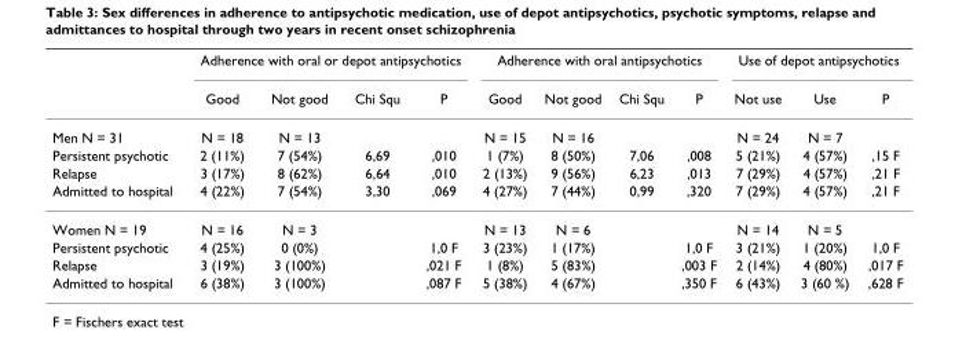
<table><thead><tr><td rowspan="2"></td><td colspan="4">Adherence with oral or depot antipsychotics</td><td colspan="4">Adherence with oral antipsychotics</td><td colspan="3">Use of depot antipsychotics</td></tr><tr><td>Good</td><td>Not good</td><td>Chi Squ</td><td>P</td><td>Good</td><td>Not good</td><td>Chi Squ</td><td>P</td><td>Not use</td><td>Use</td><td>P</td></tr></thead><tbody><tr><td>Men N = 31</td><td>N = 18</td><td>N = 13</td><td></td><td></td><td>N = 15</td><td>N = 16</td><td></td><td></td><td>N = 24</td><td>N = 7</td><td></td></tr><tr><td>Persistent psychotic</td><td>2 (11%)</td><td>7 (54%)</td><td>6,69</td><td>,010</td><td>1 (7%)</td><td>8 (50%)</td><td>7,06</td><td>,008</td><td>5 (21%)</td><td>4 (57%)</td><td>,15 F</td></tr><tr><td>Relapse</td><td>3 (17%)</td><td>8 (62%)</td><td>6,64</td><td>,010</td><td>2 (13%)</td><td>9 (56%)</td><td>6,23</td><td>,013</td><td>7 (29%)</td><td>4 (57%)</td><td>,21 F</td></tr><tr><td>Admitted to hospital</td><td>4 (22%)</td><td>7 (54%)</td><td>3,30</td><td>,069</td><td>4 (27%)</td><td>7 (44%)</td><td>0,99</td><td>,320</td><td>7 (29%)</td><td>4 (57%)</td><td>,21 F</td></tr><tr><td>Women N = 19</td><td>N = 16</td><td>N = 3</td><td></td><td></td><td>N = 13</td><td>N = 6</td><td></td><td></td><td>N = 14</td><td>N = 5</td><td></td></tr><tr><td>Persistent psychotic</td><td>4 (25%)</td><td>0 (0%)</td><td></td><td>1,0 F</td><td>3 (23%)</td><td>1 (17%)</td><td></td><td>1,0 F</td><td>3 (21%)</td><td>1 (20%)</td><td>1,0 F</td></tr><tr><td>Relapse</td><td>3 (19%)</td><td>3 (100%)</td><td></td><td>,021 F</td><td>1 (8%)</td><td>5 (83%)</td><td></td><td>,003 F</td><td>2 (14%)</td><td>4 (80%)</td><td>,017 F</td></tr><tr><td>Admitted to hospital</td><td>6 (38%)</td><td>3 (100%)</td><td></td><td>,087 F</td><td>5 (38%)</td><td>4 (67%)</td><td></td><td>,350 F</td><td>6 (43%)</td><td>3 (60 %)</td><td>,628 F</td></tr></tbody></table>